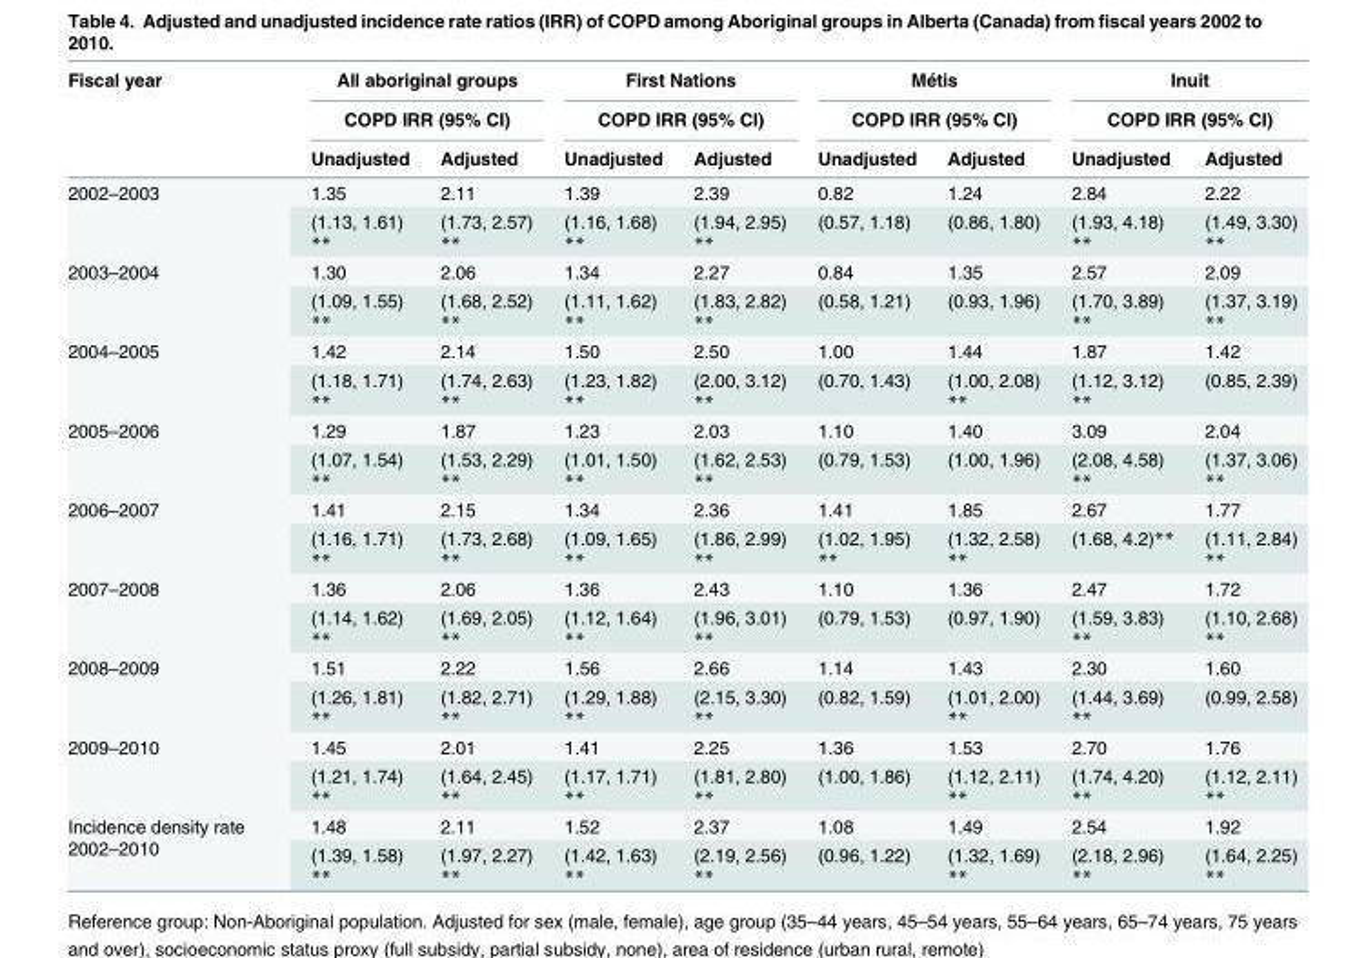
<table><thead><tr><td rowspan="3">Fiscal year</td><td rowspan="2" colspan="2">All aboriginal groups COPD IRR (95% CI)</td><td rowspan="2" colspan="2">First Nations COPD IRR (95% CI)</td><td rowspan="2" colspan="2">Métis COPD IRR (95% CI)</td><td rowspan="2" colspan="2">Inuit COPD IRR (95% CI)</td></tr><tr></tr><tr><td>Unadjusted</td><td>Adjusted</td><td>Unadjusted</td><td>Adjusted</td><td>Unadjusted</td><td>Adjusted</td><td>Unadjusted</td><td>Adjusted</td></tr></thead><tbody><tr><td rowspan="2">2002–2003</td><td>1.35</td><td>2.11</td><td>1.39</td><td>2.39</td><td>0.82</td><td>1.24</td><td>2.84</td><td>2.22</td></tr><tr><td>(1.13, 1.61) **</td><td>(1.73, 2.57) **</td><td>(1.16, 1.68) **</td><td>(1.94, 2.95) **</td><td>(0.57, 1.18)</td><td>(0.86, 1.80)</td><td>(1.93, 4.18) **</td><td>(1.49, 3.30) **</td></tr><tr><td rowspan="2">2003–2004</td><td>1.30</td><td>2.06</td><td>1.34</td><td>2.27</td><td>0.84</td><td>1.35</td><td>2.57</td><td>2.09</td></tr><tr><td>(1.09, 1.55) **</td><td>(1.68, 2.52) **</td><td>(1.11, 1.62) **</td><td>(1.83, 2.82) **</td><td>(0.58, 1.21)</td><td>(0.93, 1.96)</td><td>(1.70, 3.89) **</td><td>(1.37, 3.19) **</td></tr><tr><td rowspan="2">2004–2005</td><td>1.42</td><td>2.14</td><td>1.50</td><td>2.50</td><td>1.00</td><td>1.44</td><td>1.87</td><td>1.42</td></tr><tr><td>(1.18, 1.71) **</td><td>(1.74, 2.63) **</td><td>(1.23, 1.82) **</td><td>(2.00, 3.12) **</td><td>(0.70, 1.43)</td><td>(1.00, 2.08) **</td><td>(1.12, 3.12) **</td><td>(0.85, 2.39)</td></tr><tr><td rowspan="2">2005–2006</td><td>1.29</td><td>1.87</td><td>1.23</td><td>2.03</td><td>1.10</td><td>1.40</td><td>3.09</td><td>2.04</td></tr><tr><td>(1.07, 1.54) **</td><td>(1.53, 2.29) **</td><td>(1.01, 1.50) **</td><td>(1.62, 2.53) **</td><td>(0.79, 1.53)</td><td>(1.00, 1.96)</td><td>(2.08, 4.58) **</td><td>(1.37, 3.06) **</td></tr><tr><td rowspan="2">2006–2007</td><td>1.41</td><td>2.15</td><td>1.34</td><td>2.36</td><td>1.41</td><td>1.85</td><td>2.67</td><td>1.77</td></tr><tr><td>(1.16, 1.71) **</td><td>(1.73, 2.68) **</td><td>(1.09, 1.65) **</td><td>(1.86, 2.99) **</td><td>(1.02, 1.95) **</td><td>(1.32, 2.58) **</td><td>(1.68, 4.2)**</td><td>(1.11, 2.84) **</td></tr><tr><td rowspan="2">2007–2008</td><td>1.36</td><td>2.06</td><td>1.36</td><td>2.43</td><td>1.10</td><td>1.36</td><td>2.47</td><td>1.72</td></tr><tr><td>(1.14, 1.62) **</td><td>(1.69, 2.05) **</td><td>(1.12, 1.64) **</td><td>(1.96, 3.01) **</td><td>(0.79, 1.53)</td><td>(0.97, 1.90)</td><td>(1.59, 3.83) **</td><td>(1.10, 2.68) **</td></tr><tr><td rowspan="2">2008–2009</td><td>1.51</td><td>2.22</td><td>1.56</td><td>2.66</td><td>1.14</td><td>1.43</td><td>2.30</td><td>1.60</td></tr><tr><td>(1.26, 1.81) **</td><td>(1.82, 2.71) **</td><td>(1.29, 1.88) **</td><td>(2.15, 3.30) **</td><td>(0.82, 1.59)</td><td>(1.01, 2.00) **</td><td>(1.44, 3.69) **</td><td>(0.99, 2.58)</td></tr><tr><td rowspan="2">2009–2010</td><td>1.45</td><td>2.01</td><td>1.41</td><td>2.25</td><td>1.36</td><td>1.53</td><td>2.70</td><td>1.76</td></tr><tr><td>(1.21, 1.74) **</td><td>(1.64, 2.45) **</td><td>(1.17, 1.71) **</td><td>(1.81, 2.80) **</td><td>(1.00, 1.86)</td><td>(1.12, 2.11) **</td><td>(1.74, 4.20) **</td><td>(1.12, 2.11) **</td></tr><tr><td rowspan="2">Incidence density rate 2002–2010</td><td>1.48</td><td>2.11</td><td>1.52</td><td>2.37</td><td>1.08</td><td>1.49</td><td>2.54</td><td>1.92</td></tr><tr><td>(1.39, 1.58) **</td><td>(1.97, 2.27) **</td><td>(1.42, 1.63) **</td><td>(2.19, 2.56) **</td><td>(0.96, 1.22)</td><td>(1.32, 1.69) **</td><td>(2.18, 2.96) **</td><td>(1.64, 2.25) **</td></tr></tbody></table>